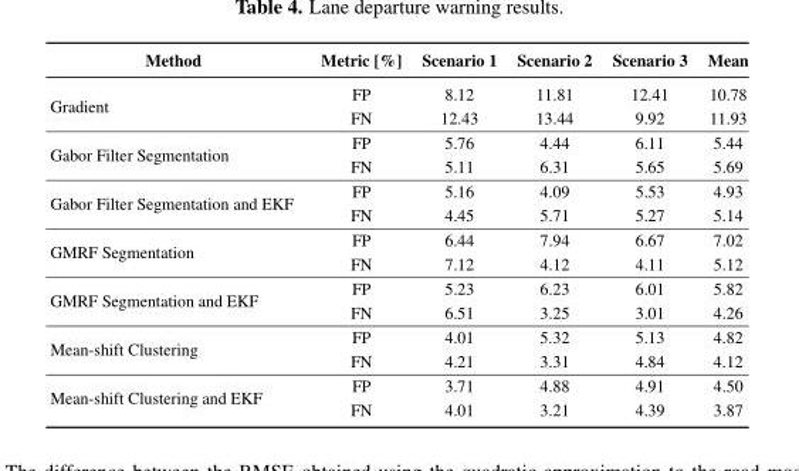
<table><thead><tr><td>Method</td><td>Metric [%]</td><td>Scenario 1</td><td>Scenario 2</td><td>Scenario 3</td><td>Mean</td></tr></thead><tbody><tr><td rowspan="2">Gradient</td><td>FP</td><td>8.12</td><td>11.81</td><td>12.41</td><td>10.78</td></tr><tr><td>FN</td><td>12.43</td><td>13.44</td><td>9.92</td><td>11.93</td></tr><tr><td rowspan="2">Gabor Filter Segmentation</td><td>FP</td><td>5.76</td><td>4.44</td><td>6.11</td><td>5.44</td></tr><tr><td>FN</td><td>5.11</td><td>6.31</td><td>5.65</td><td>5.69</td></tr><tr><td rowspan="2">Gabor Filter Segmentation and EKF</td><td>FP</td><td>5.16</td><td>4.09</td><td>5.53</td><td>4.93</td></tr><tr><td>FN</td><td>4.45</td><td>5.71</td><td>5.27</td><td>5.14</td></tr><tr><td rowspan="2">GMRF Segmentation</td><td>FP</td><td>6.44</td><td>7.94</td><td>6.67</td><td>7.02</td></tr><tr><td>FN</td><td>7.12</td><td>4.12</td><td>4.11</td><td>5.12</td></tr><tr><td rowspan="2">GMRF Segmentation and EKF</td><td>FP</td><td>5.23</td><td>6.23</td><td>6.01</td><td>5.82</td></tr><tr><td>FN</td><td>6.51</td><td>3.25</td><td>3.01</td><td>4.26</td></tr><tr><td rowspan="2">Mean-shift Clustering</td><td>FP</td><td>4.01</td><td>5.32</td><td>5.13</td><td>4.82</td></tr><tr><td>FN</td><td>4.21</td><td>3.31</td><td>4.84</td><td>4.12</td></tr><tr><td rowspan="2">Mean-shift Clustering and EKF</td><td>FP</td><td>3.71</td><td>4.88</td><td>4.91</td><td>4.50</td></tr><tr><td>FN</td><td>4.01</td><td>3.21</td><td>4.39</td><td>3.87</td></tr></tbody></table>